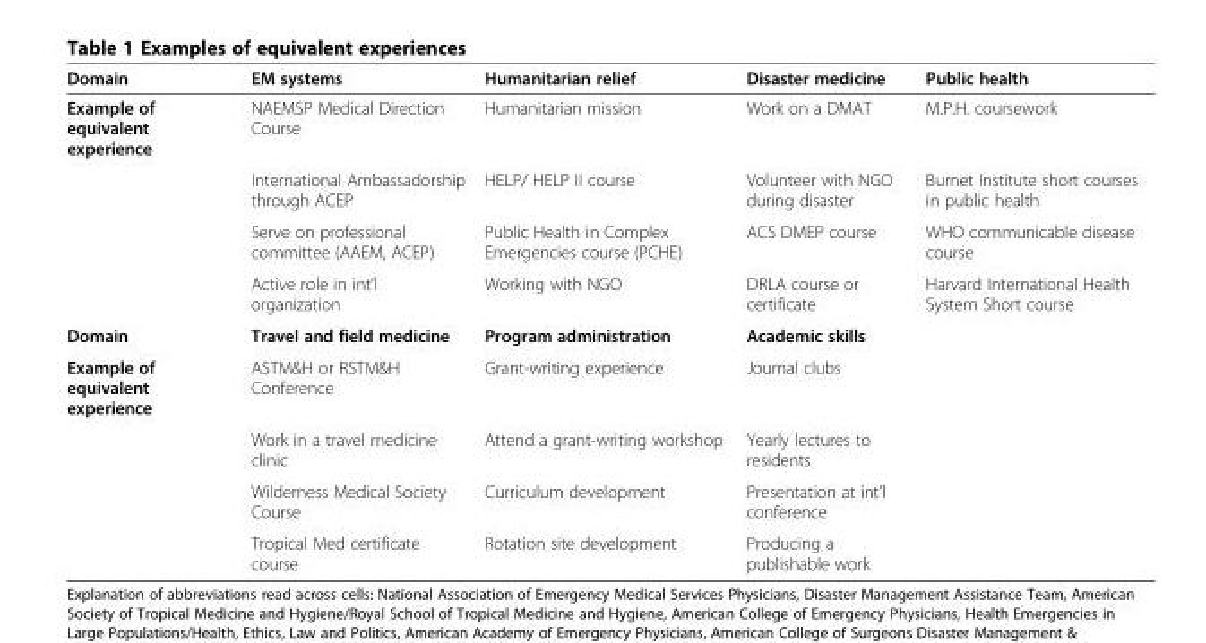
<table><thead><tr><td>Domain</td><td>EM systems</td><td>Humanitarian relief</td><td>Disaster medicine</td><td>Public health</td></tr></thead><tbody><tr><td rowspan="4">Example of equivalent experience</td><td>NAEMSP Medical Direction Course</td><td>Humanitarian mission</td><td>Work on a DMAT</td><td>M.P.H. coursework</td></tr><tr><td>International Ambassadorship through ACEP</td><td>HELP/ HELP II course</td><td>Volunteer with NGO during disaster</td><td>Burnet Institute short courses in public health</td></tr><tr><td>Serve on professional committee (AAEM, ACEP)</td><td>Public Health in Complex Emergencies course (PCHE)</td><td>ACS DMEP course</td><td>WHO communicable disease course</td></tr><tr><td>Active role in int’l organization</td><td>Working with NGO</td><td>DRLA course or certificate</td><td>Harvard International Health System Short course</td></tr><tr><td>Domain</td><td>Travel and field medicine</td><td>Program administration</td><td>Academic skills</td><td rowspan="5"></td></tr><tr><td rowspan="4">Example of equivalent experience</td><td>ASTM&amp;H or RSTM&amp;H Conference</td><td>Grant-writing experience</td><td>Journal clubs</td></tr><tr><td>Work in a travel medicine clinic</td><td>Attend a grant-writing workshop</td><td>Yearly lectures to residents</td></tr><tr><td>Wilderness Medical Society Course</td><td>Curriculum development</td><td>Presentation at int’l conference</td></tr><tr><td>Tropical Med certificate course</td><td>Rotation site development</td><td>Producing a publishable work</td></tr></tbody></table>